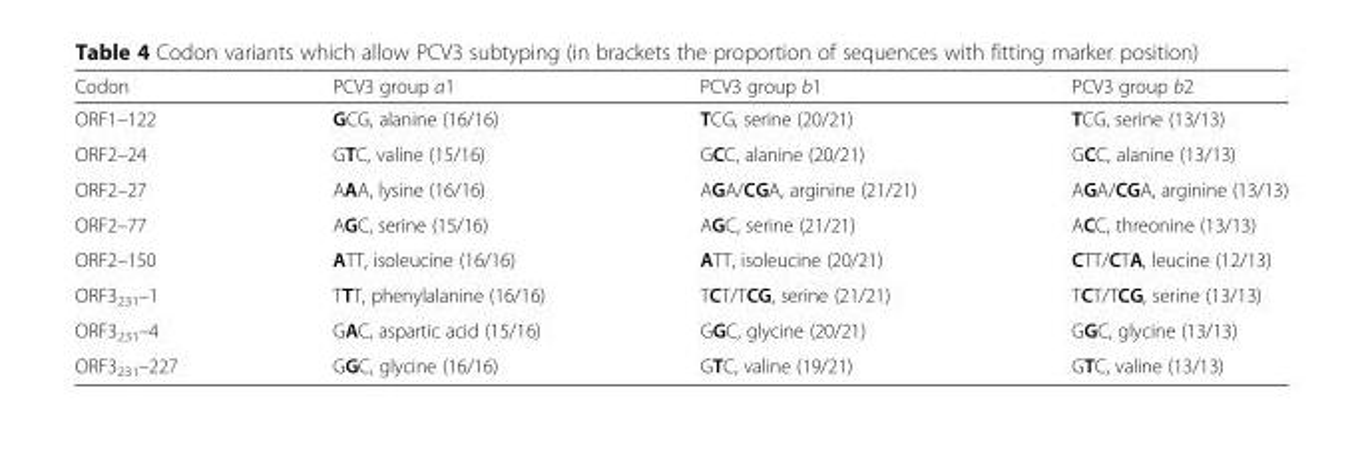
<table><thead><tr><td>Codon</td><td>PCV3 group a1</td><td>PCV3 group b1</td><td>PCV3 group b2</td></tr></thead><tbody><tr><td>ORF1–122</td><td>GCG, alanine (16/16)</td><td>TCG, serine (20/21)</td><td>TCG, serine (13/13)</td></tr><tr><td>ORF2–24</td><td>GTC, valine (15/16)</td><td>GCC, alanine (20/21)</td><td>GCC, alanine (13/13)</td></tr><tr><td>ORF2–27</td><td>AAA, lysine (16/16)</td><td>AGA/CGA, arginine (21/21)</td><td>AGA/CGA, arginine (13/13)</td></tr><tr><td>ORF2–77</td><td>AGC, serine (15/16)</td><td>AGC, serine (21/21)</td><td>ACC, threonine (13/13)</td></tr><tr><td>ORF2–150</td><td>ATT, isoleucine (16/16)</td><td>ATT, isoleucine (20/21)</td><td>CTT/CTA, leucine (12/13)</td></tr><tr><td>ORF3<sub>231</sub>–1</td><td>TTT, phenylalanine (16/16)</td><td>TCT/TCG, serine (21/21)</td><td>TCT/TCG, serine (13/13)</td></tr><tr><td>ORF3<sub>231</sub>–4</td><td>GAC, aspartic acid (15/16)</td><td>GGC, glycine (20/21)</td><td>GGC, glycine (13/13)</td></tr><tr><td>ORF3<sub>231</sub>–227</td><td>GGC, glycine (16/16)</td><td>GTC, valine (19/21)</td><td>GTC, valine (13/13)</td></tr></tbody></table>